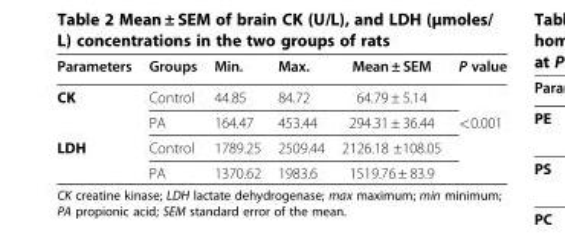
<table><thead><tr><td>Parameters</td><td>Groups</td><td>Min.</td><td>Max.</td><td>Mean ± SEM</td><td>P value</td></tr></thead><tbody><tr><td rowspan="2">CK</td><td>Control</td><td>44.85</td><td>84.72</td><td>64.79 ± 5.14</td><td></td></tr><tr><td>PA</td><td>164.47</td><td>453.44</td><td>294.31 ± 36.44</td><td>&lt;0.001</td></tr><tr><td rowspan="2">LDH</td><td>Control</td><td>1789.25</td><td>2509.44</td><td>2126.18 ±108.05</td><td></td></tr><tr><td>PA</td><td>1370.62</td><td>1983.6</td><td>1519.76 ± 83.9</td><td></td></tr></tbody></table>